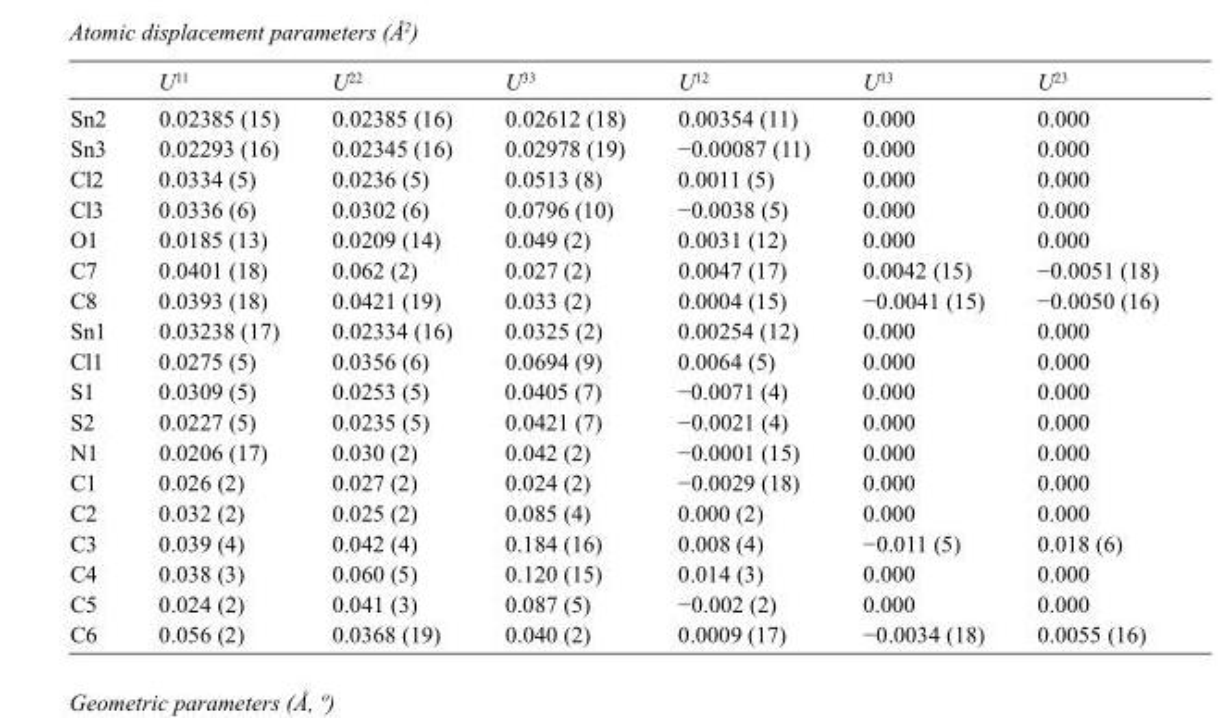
<table><thead><tr><td></td><td>U<sup>11</sup></td><td>U<sup>22</sup></td><td>U<sup>33</sup></td><td>U<sup>12</sup></td><td>U<sup>13</sup></td><td>U<sup>23</sup></td></tr></thead><tbody><tr><td>Sn2</td><td>0.02385 (15)</td><td>0.02385 (16)</td><td>0.02612 (18)</td><td>0.00354 (11)</td><td>0.000</td><td>0.000</td></tr><tr><td>Sn3</td><td>0.02293 (16)</td><td>0.02345 (16)</td><td>0.02978 (19)</td><td>−0.00087 (11)</td><td>0.000</td><td>0.000</td></tr><tr><td>Cl2</td><td>0.0334 (5)</td><td>0.0236 (5)</td><td>0.0513 (8)</td><td>0.0011 (5)</td><td>0.000</td><td>0.000</td></tr><tr><td>Cl3</td><td>0.0336 (6)</td><td>0.0302 (6)</td><td>0.0796 (10)</td><td>−0.0038 (5)</td><td>0.000</td><td>0.000</td></tr><tr><td>O1</td><td>0.0185 (13)</td><td>0.0209 (14)</td><td>0.049 (2)</td><td>0.0031 (12)</td><td>0.000</td><td>0.000</td></tr><tr><td>C7</td><td>0.0401 (18)</td><td>0.062 (2)</td><td>0.027 (2)</td><td>0.0047 (17)</td><td>0.0042 (15)</td><td>−0.0051 (18)</td></tr><tr><td>C8</td><td>0.0393 (18)</td><td>0.0421 (19)</td><td>0.033 (2)</td><td>0.0004 (15)</td><td>−0.0041 (15)</td><td>−0.0050 (16)</td></tr><tr><td>Sn1</td><td>0.03238 (17)</td><td>0.02334 (16)</td><td>0.0325 (2)</td><td>0.00254 (12)</td><td>0.000</td><td>0.000</td></tr><tr><td>Cl1</td><td>0.0275 (5)</td><td>0.0356 (6)</td><td>0.0694 (9)</td><td>0.0064 (5)</td><td>0.000</td><td>0.000</td></tr><tr><td>S1</td><td>0.0309 (5)</td><td>0.0253 (5)</td><td>0.0405 (7)</td><td>−0.0071 (4)</td><td>0.000</td><td>0.000</td></tr><tr><td>S2</td><td>0.0227 (5)</td><td>0.0235 (5)</td><td>0.0421 (7)</td><td>−0.0021 (4)</td><td>0.000</td><td>0.000</td></tr><tr><td>N1</td><td>0.0206 (17)</td><td>0.030 (2)</td><td>0.042 (2)</td><td>−0.0001 (15)</td><td>0.000</td><td>0.000</td></tr><tr><td>C1</td><td>0.026 (2)</td><td>0.027 (2)</td><td>0.024 (2)</td><td>−0.0029 (18)</td><td>0.000</td><td>0.000</td></tr><tr><td>C2</td><td>0.032 (2)</td><td>0.025 (2)</td><td>0.085 (4)</td><td>0.000 (2)</td><td>0.000</td><td>0.000</td></tr><tr><td>C3</td><td>0.039 (4)</td><td>0.042 (4)</td><td>0.184 (16)</td><td>0.008 (4)</td><td>−0.011 (5)</td><td>0.018 (6)</td></tr><tr><td>C4</td><td>0.038 (3)</td><td>0.060 (5)</td><td>0.120 (15)</td><td>0.014 (3)</td><td>0.000</td><td>0.000</td></tr><tr><td>C5</td><td>0.024 (2)</td><td>0.041 (3)</td><td>0.087 (5)</td><td>−0.002 (2)</td><td>0.000</td><td>0.000</td></tr><tr><td>C6</td><td>0.056 (2)</td><td>0.0368 (19)</td><td>0.040 (2)</td><td>0.0009 (17)</td><td>−0.0034 (18)</td><td>0.0055 (16)</td></tr></tbody></table>